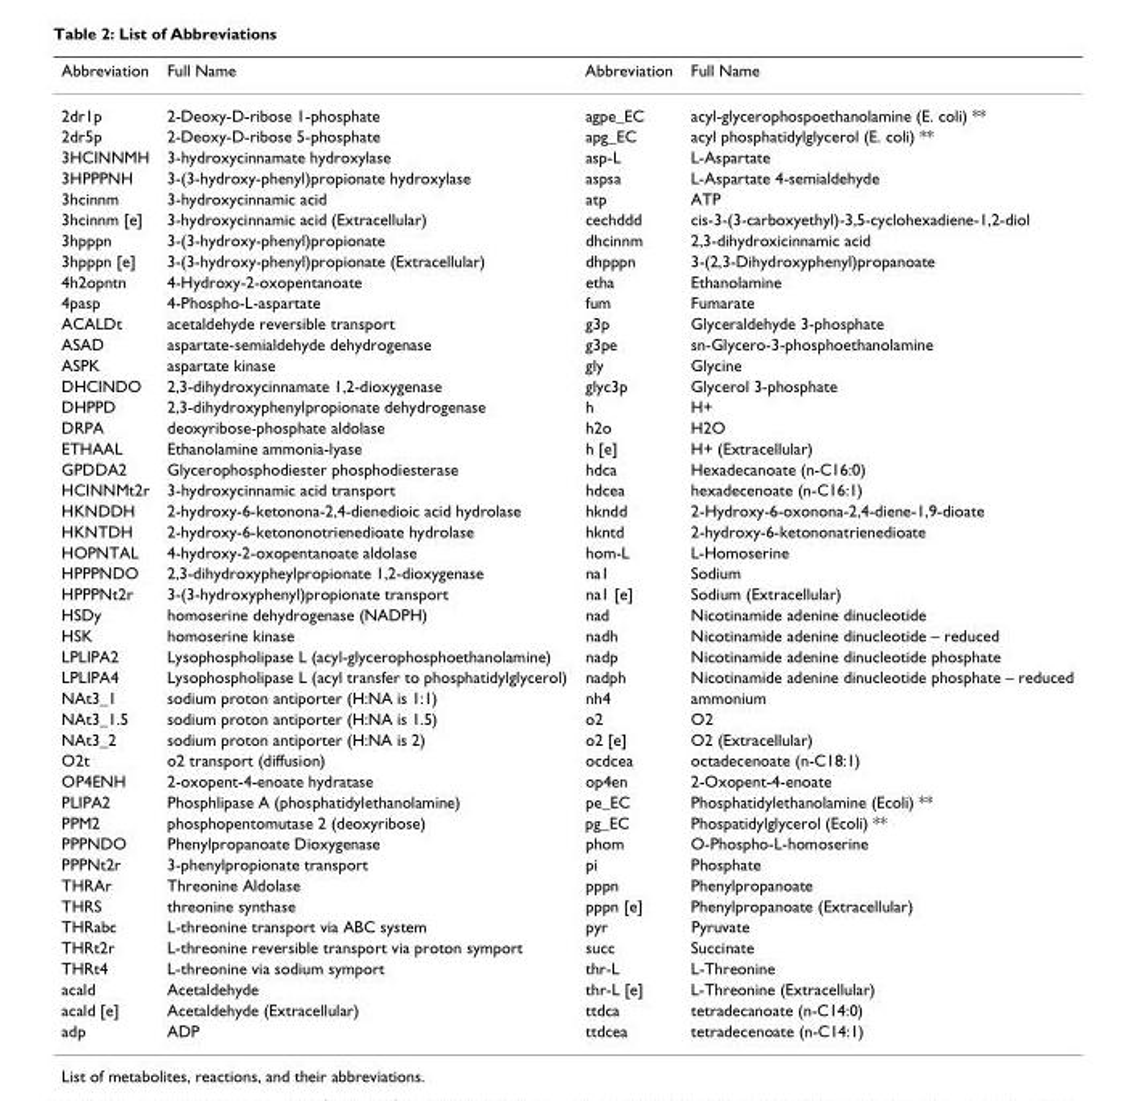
<table><thead><tr><td>Abbreviation</td><td>Full Name</td><td>Abbreviation</td><td>Full Name</td></tr></thead><tbody><tr><td>2dr1p</td><td>2-Deoxy-D-ribose 1-phosphate</td><td>agpe_EC</td><td>acyl-glycerophospoethanolamine (E. coli) **</td></tr><tr><td>2dr5p</td><td>2-Deoxy-D-ribose 5-phosphate</td><td>apg_EC</td><td>acyl phosphatidylglycerol (E. coli) **</td></tr><tr><td>3HCINNMH</td><td>3-hydroxycinnamate hydroxylase</td><td>asp-L</td><td>L-Aspartate</td></tr><tr><td>3HPPPNH</td><td>3-(3-hydroxy-phenyl)propionate hydroxylase</td><td>aspsa</td><td>L-Aspartate 4-semialdehyde</td></tr><tr><td>3hcinnm</td><td>3-hydroxycinnamic acid</td><td>atp</td><td>ATP</td></tr><tr><td>3hcinnm [e]</td><td>3-hydroxycinnamic acid (Extracellular)</td><td>cechddd</td><td>cis-3-(3-carboxyethyl)-3,5-cyclohexadiene-1,2-diol</td></tr><tr><td>3hpppn</td><td>3-(3-hydroxy-phenyl)propionate</td><td>dhcinnm</td><td>2,3-dihydroxicinnamic acid</td></tr><tr><td>3hpppn [e]</td><td>3-(3-hydroxy-phenyl)propionate (Extracellular)</td><td>dhpppn</td><td>3-(2,3-Dihydroxyphenyl)propanoate</td></tr><tr><td>4h2opntn</td><td>4-Hydroxy-2-oxopentanoate</td><td>etha</td><td>Ethanolamine</td></tr><tr><td>4pasp</td><td>4-Phospho-L-aspartate</td><td>fum</td><td>Fumarate</td></tr><tr><td>ACALDt</td><td>acetaldehyde reversible transport</td><td>g3p</td><td>Glyceraldehyde 3-phosphate</td></tr><tr><td>ASAD</td><td>aspartate-semialdehyde dehydrogenase</td><td>g3pe</td><td>sn-Glycero-3-phosphoethanolamine</td></tr><tr><td>ASPK</td><td>aspartate kinase</td><td>gly</td><td>Glycine</td></tr><tr><td>DHCINDO</td><td>2,3-dihydroxycinnamate 1,2-dioxygenase</td><td>glyc3p</td><td>Glycerol 3-phosphate</td></tr><tr><td>DHPPD</td><td>2,3-dihydroxyphenylpropionate dehydrogenase</td><td>h</td><td>H+</td></tr><tr><td>DRPA</td><td>deoxyribose-phosphate aldolase</td><td>h2o</td><td>H2O</td></tr><tr><td>ETHAAL</td><td>Ethanolamine ammonia-lyase</td><td>h [e]</td><td>H+ (Extracellular)</td></tr><tr><td>GPDDA2</td><td>Glycerophosphodiester phosphodiesterase</td><td>hdca</td><td>Hexadecanoate (n-C16:0)</td></tr><tr><td>HCINNMt2r</td><td>3-hydroxycinnamic acid transport</td><td>hdcea</td><td>hexadecenoate (n-C16:1)</td></tr><tr><td>HKNDDH</td><td>2-hydroxy-6-ketonona-2,4-dienedioic acid hydrolase</td><td>hkndd</td><td>2-Hydroxy-6-oxonona-2,4-diene-1,9-dioate</td></tr><tr><td>HKNTDH</td><td>2-hydroxy-6-ketononotrienedioate hydrolase</td><td>hkntd</td><td>2-hydroxy-6-ketononatrienedioate</td></tr><tr><td>HOPNTAL</td><td>4-hydroxy-2-oxopentanoate aldolase</td><td>hom-L</td><td>L-Homoserine</td></tr><tr><td>HPPPNDO</td><td>2,3-dihydroxypheylpropionate 1,2-dioxygenase</td><td>na1</td><td>Sodium</td></tr><tr><td>HPPPNt2r</td><td>3-(3-hydroxyphenyl)propionate transport</td><td>na1 [e]</td><td>Sodium (Extracellular)</td></tr><tr><td>HSDy</td><td>homoserine dehydrogenase (NADPH)</td><td>nad</td><td>Nicotinamide adenine dinucleotide</td></tr><tr><td>HSK</td><td>homoserine kinase</td><td>nadh</td><td>Nicotinamide adenine dinucleotide – reduced</td></tr><tr><td>LPLIPA2</td><td>Lysophospholipase L (acyl-glycerophosphoethanolamine)</td><td>nadp</td><td>Nicotinamide adenine dinucleotide phosphate</td></tr><tr><td>LPLIPA4</td><td>Lysophospholipase L (acyl transfer to phosphatidylglycerol)</td><td>nadph</td><td>Nicotinamide adenine dinucleotide phosphate – reduced</td></tr><tr><td>NAt3_1</td><td>sodium proton antiporter (H:NA is 1:1)</td><td>nh4</td><td>ammonium</td></tr><tr><td>NAt3_1.5</td><td>sodium proton antiporter (H:NA is 1.5)</td><td>o2</td><td>O2</td></tr><tr><td>NAt3_2</td><td>sodium proton antiporter (H:NA is 2)</td><td>o2 [e]</td><td>O2 (Extracellular)</td></tr><tr><td>O2t</td><td>o2 transport (diffusion)</td><td>ocdcea</td><td>octadecenoate (n-C18:1)</td></tr><tr><td>OP4ENH</td><td>2-oxopent-4-enoate hydratase</td><td>op4en</td><td>2-Oxopent-4-enoate</td></tr><tr><td>PLIPA2</td><td>Phosphlipase A (phosphatidylethanolamine)</td><td>pe_EC</td><td>Phosphatidylethanolamine (Ecoli) **</td></tr><tr><td>PPM2</td><td>phosphopentomutase 2 (deoxyribose)</td><td>pg_EC</td><td>Phospatidylglycerol (Ecoli) **</td></tr><tr><td>PPPNDO</td><td>Phenylpropanoate Dioxygenase</td><td>phom</td><td>O-Phospho-L-homoserine</td></tr><tr><td>PPPNt2r</td><td>3-phenylpropionate transport</td><td>pi</td><td>Phosphate</td></tr><tr><td>THRAr</td><td>Threonine Aldolase</td><td>pppn</td><td>Phenylpropanoate</td></tr><tr><td>THRS</td><td>threonine synthase</td><td>pppn [e]</td><td>Phenylpropanoate (Extracellular)</td></tr><tr><td>THRabc</td><td>L-threonine transport via ABC system</td><td>pyr</td><td>Pyruvate</td></tr><tr><td>THRt2r</td><td>L-threonine reversible transport via proton symport</td><td>succ</td><td>Succinate</td></tr><tr><td>THRt4</td><td>L-threonine via sodium symport</td><td>thr-L</td><td>L-Threonine</td></tr><tr><td>acald</td><td>Acetaldehyde</td><td>thr-L [e]</td><td>L-Threonine (Extracellular)</td></tr><tr><td>acald [e]</td><td>Acetaldehyde (Extracellular)</td><td>ttdca</td><td>tetradecanoate (n-C14:0)</td></tr><tr><td>adp</td><td>ADP</td><td>ttdcea</td><td>tetradecenoate (n-C14:1)</td></tr></tbody></table>